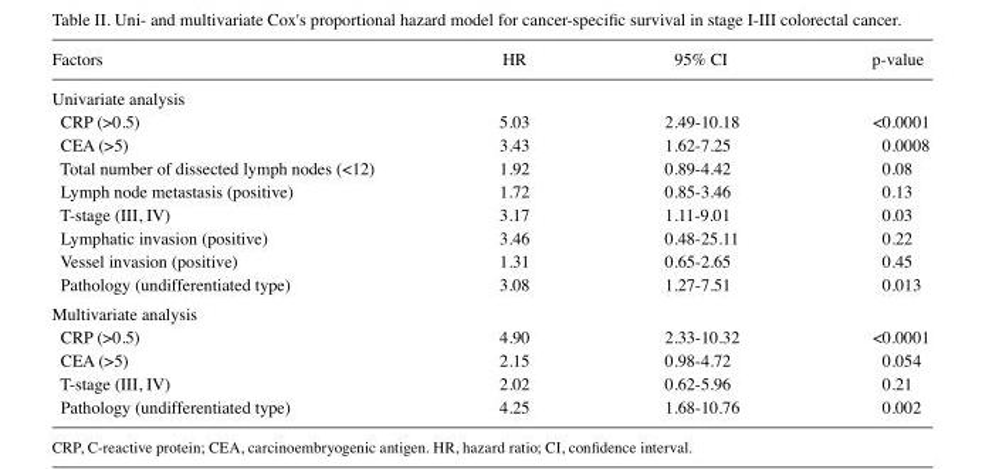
<table><thead><tr><td>Factors</td><td>HR</td><td>95% CI</td><td>p-value</td></tr></thead><tbody><tr><td colspan="4">Univariate analysis</td></tr><tr><td>CRP (&gt;0.5)</td><td>5.03</td><td>2.49-10.18</td><td>&lt;0.0001</td></tr><tr><td>CEA (&gt;5)</td><td>3.43</td><td>1.62-7.25</td><td>0.0008</td></tr><tr><td>Total number of dissected lymph nodes (&lt;12)</td><td>1.92</td><td>0.89-4.42</td><td>0.08</td></tr><tr><td>Lymph node metastasis (positive)</td><td>1.72</td><td>0.85-3.46</td><td>0.13</td></tr><tr><td>T-stage (III, IV)</td><td>3.17</td><td>1.11-9.01</td><td>0.03</td></tr><tr><td>Lymphatic invasion (positive)</td><td>3.46</td><td>0.48-25.11</td><td>0.22</td></tr><tr><td>Vessel invasion (positive)</td><td>1.31</td><td>0.65-2.65</td><td>0.45</td></tr><tr><td>Pathology (undifferentiated type)</td><td>3.08</td><td>1.27-7.51</td><td>0.013</td></tr><tr><td colspan="4">Multivariate analysis</td></tr><tr><td>CRP (&gt;0.5)</td><td>4.90</td><td>2.33-10.32</td><td>&lt;0.0001</td></tr><tr><td>CEA (&gt;5)</td><td>2.15</td><td>0.98-4.72</td><td>0.054</td></tr><tr><td>T-stage (III, IV)</td><td>2.02</td><td>0.62-5.96</td><td>0.21</td></tr><tr><td>Pathology (undifferentiated type)</td><td>4.25</td><td>1.68-10.76</td><td>0.002</td></tr></tbody></table>